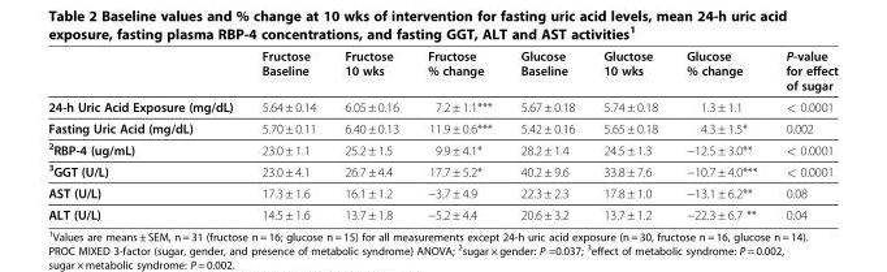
<table><thead><tr><td></td><td>Fructose Baseline</td><td>Fructose 10 wks</td><td>Fructose % change</td><td>Glucose Baseline</td><td>Gluctose 10 wks</td><td>Glucose % change</td><td>P-value for effect of sugar</td></tr></thead><tbody><tr><td>24-h Uric Acid Exposure (mg/dL)</td><td>5.64 ± 0.14</td><td>6.05 ± 0.16</td><td>7.2 ± 1.1***</td><td>5.67 ± 0.18</td><td>5.74 ± 0.18</td><td>1.3 ± 1.1</td><td>&lt; 0.0001</td></tr><tr><td>Fasting Uric Acid (mg/dL)</td><td>5.70 ± 0.11</td><td>6.40 ± 0.13</td><td>11.9 ± 0.6***</td><td>5.42 ± 0.16</td><td>5.65 ± 0.18</td><td>4.3 ± 1.5*</td><td>0.002</td></tr><tr><td><sup>2</sup>RBP-4 (ug/mL)</td><td>23.0 ± 1.1</td><td>25.2 ± 1.5</td><td>9.9 ± 4.1*</td><td>28.2 ± 1.4</td><td>24.5 ± 1.3</td><td>−12.5 ± 3.0**</td><td>&lt; 0.0001</td></tr><tr><td><sup>3</sup>GGT (U/L)</td><td>23.0 ± 4.1</td><td>26.7 ± 4.4</td><td>17.7 ± 5.2*</td><td>40.2 ± 9.6</td><td>33.8 ± 7.6</td><td>−10.7 ± 4.0***</td><td>&lt; 0.0001</td></tr><tr><td>AST (U/L)</td><td>17.3 ± 1.6</td><td>16.1 ± 1.2</td><td>−3.7 ± 4.9</td><td>22.3 ± 2.3</td><td>17.8 ± 1.0</td><td>−13.1 ± 6.2**</td><td>0.08</td></tr><tr><td>ALT (U/L)</td><td>14.5 ± 1.6</td><td>13.7 ± 1.8</td><td>−5.2 ± 4.4</td><td>20.6 ± 3.2</td><td>13.7 ± 1.2</td><td>−22.3 ± 6.7 **</td><td>0.04</td></tr></tbody></table>